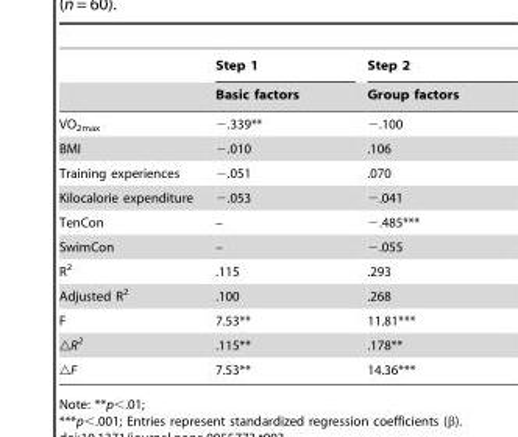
<table><thead><tr><td rowspan="2"></td><td rowspan="2">Step 1 Basic factors</td><td rowspan="2">Step 2 Group factors</td></tr><tr></tr></thead><tbody><tr><td>VO<sub>2max</sub></td><td>−.339**</td><td>−.100</td></tr><tr><td>BMI</td><td>−.010</td><td>.106</td></tr><tr><td>Training experiences</td><td>−.051</td><td>.070</td></tr><tr><td>Kilocalorie expenditure</td><td>−.053</td><td>−.041</td></tr><tr><td>TenCon</td><td>–</td><td>−.485***</td></tr><tr><td>SwimCon</td><td>–</td><td>−.055</td></tr><tr><td>R<sup>2</sup></td><td>.115</td><td>.293</td></tr><tr><td>Adjusted R<sup>2</sup></td><td>.100</td><td>.268</td></tr><tr><td>F</td><td>7.53**</td><td>11.81***</td></tr><tr><td>△R<sup>2</sup></td><td>.115**</td><td>.178**</td></tr><tr><td>△F</td><td>7.53**</td><td>14.36***</td></tr></tbody></table>